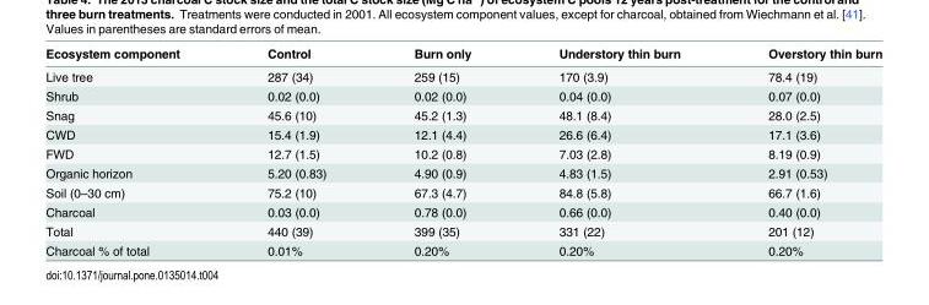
<table><thead><tr><td>Ecosystem component</td><td>Control</td><td>Burn only</td><td>Understory thin burn</td><td>Overstory thin burn</td></tr></thead><tbody><tr><td>Live tree</td><td>287 (34)</td><td>259 (15)</td><td>170 (3.9)</td><td>78.4 (19)</td></tr><tr><td>Shrub</td><td>0.02 (0.0)</td><td>0.02 (0.0)</td><td>0.04 (0.0)</td><td>0.07 (0.0)</td></tr><tr><td>Snag</td><td>45.6 (10)</td><td>45.2 (1.3)</td><td>48.1 (8.4)</td><td>28.0 (2.5)</td></tr><tr><td>CWD</td><td>15.4 (1.9)</td><td>12.1 (4.4)</td><td>26.6 (6.4)</td><td>17.1 (3.6)</td></tr><tr><td>FWD</td><td>12.7 (1.5)</td><td>10.2 (0.8)</td><td>7.03 (2.8)</td><td>8.19 (0.9)</td></tr><tr><td>Organic horizon</td><td>5.20 (0.83)</td><td>4.90 (0.9)</td><td>4.83 (1.5)</td><td>2.91 (0.53)</td></tr><tr><td>Soil (0–30 cm)</td><td>75.2 (10)</td><td>67.3 (4.7)</td><td>84.8 (5.8)</td><td>66.7 (1.6)</td></tr><tr><td>Charcoal</td><td>0.03 (0.0)</td><td>0.78 (0.0)</td><td>0.66 (0.0)</td><td>0.40 (0.0)</td></tr><tr><td>Total</td><td>440 (39)</td><td>399 (35)</td><td>331 (22)</td><td>201 (12)</td></tr><tr><td>Charcoal % of total</td><td>0.01%</td><td>0.20%</td><td>0.20%</td><td>0.20%</td></tr></tbody></table>